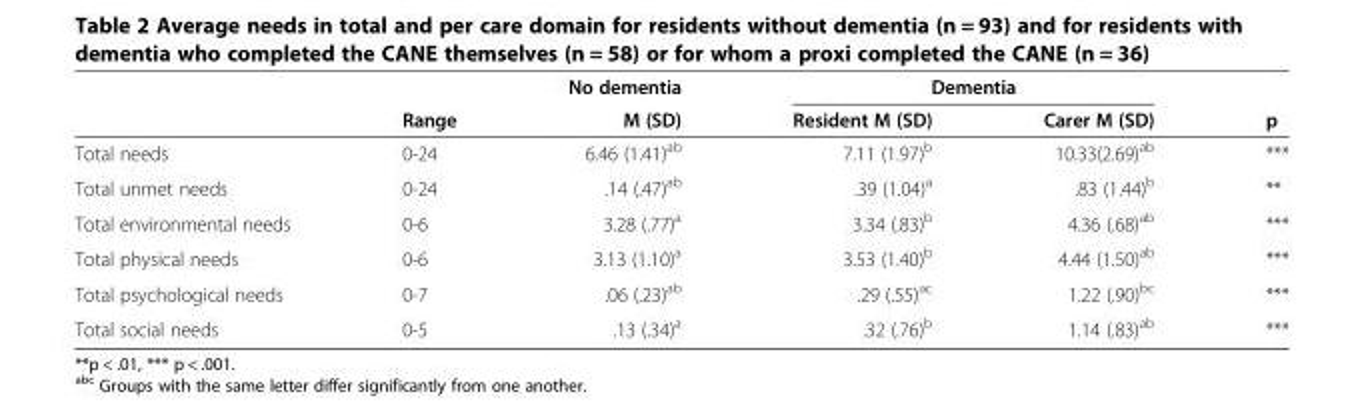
<table><thead><tr><td rowspan="2"></td><td rowspan="2">Range</td><td rowspan="2">No dementia M (SD)</td><td colspan="2">Dementia</td><td rowspan="2">p</td></tr><tr><td>Resident M (SD)</td><td>Carer M (SD)</td></tr></thead><tbody><tr><td>Total needs</td><td>0-24</td><td>6.46 (1.41)<sup>ab</sup></td><td>7.11 (1.97)<sup>b</sup></td><td>10.33(2.69)<sup>ab</sup></td><td>***</td></tr><tr><td>Total unmet needs</td><td>0-24</td><td>.14 (.47)<sup>ab</sup></td><td>.39 (1.04)<sup>a</sup></td><td>.83 (1.44)<sup>b</sup></td><td>**</td></tr><tr><td>Total environmental needs</td><td>0-6</td><td>3.28 (.77)<sup>a</sup></td><td>3.34 (.83)<sup>b</sup></td><td>4.36 (.68)<sup>ab</sup></td><td>***</td></tr><tr><td>Total physical needs</td><td>0-6</td><td>3.13 (1.10)<sup>a</sup></td><td>3.53 (1.40)<sup>b</sup></td><td>4.44 (1.50)<sup>ab</sup></td><td>***</td></tr><tr><td>Total psychological needs</td><td>0-7</td><td>.06 (.23)<sup>ab</sup></td><td>.29 (.55)<sup>ac</sup></td><td>1.22 (.90)<sup>bc</sup></td><td>***</td></tr><tr><td>Total social needs</td><td>0-5</td><td>.13 (.34)<sup>a</sup></td><td>.32 (.76)<sup>b</sup></td><td>1.14 (.83)<sup>ab</sup></td><td>***</td></tr></tbody></table>